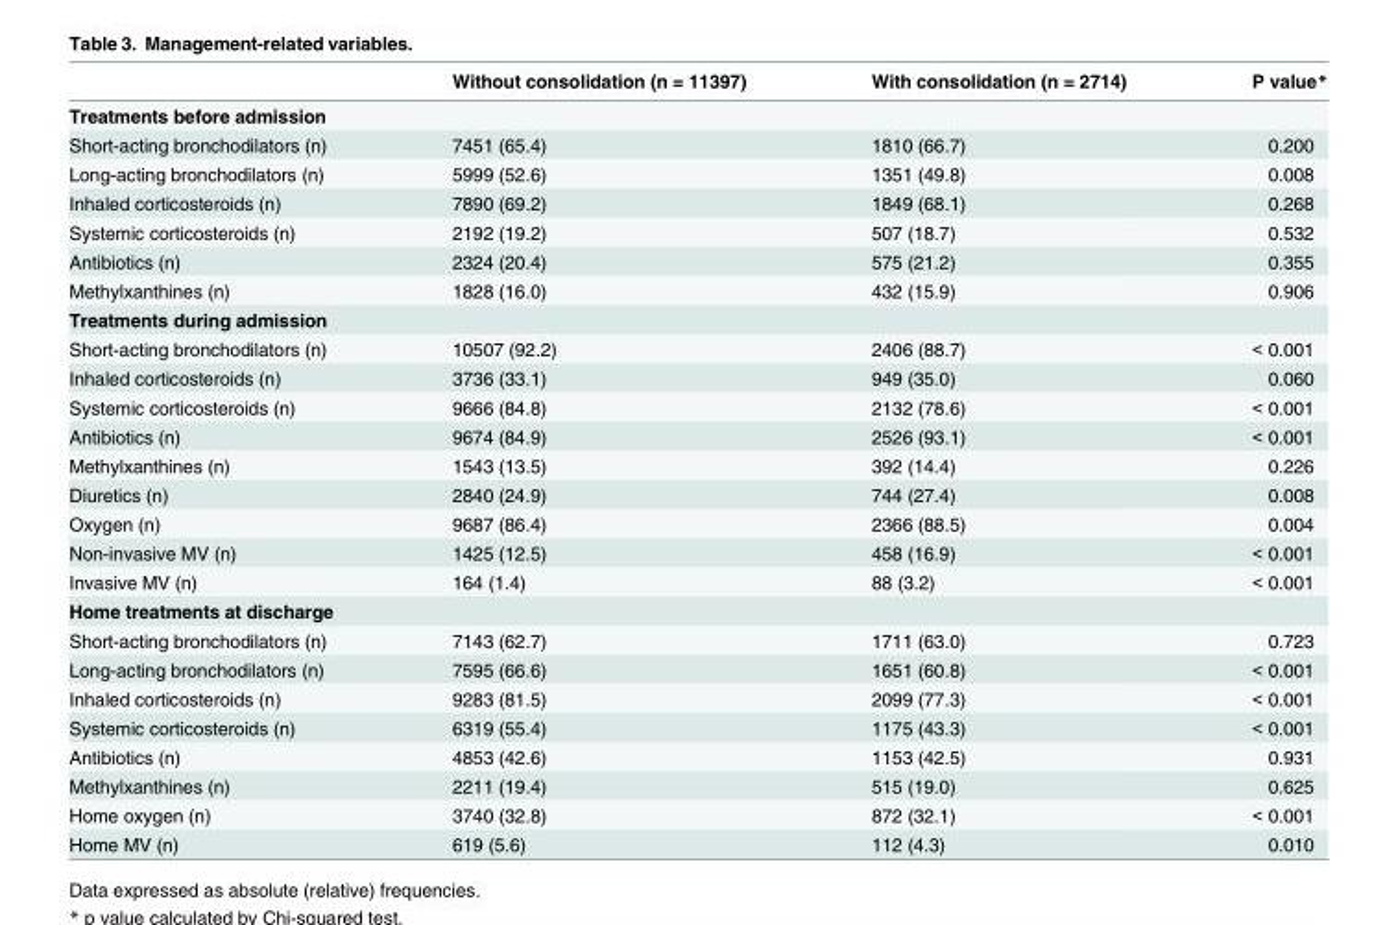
<table><thead><tr><td></td><td>Without consolidation (n = 11397)</td><td>With consolidation (n = 2714)</td><td>P value*</td></tr></thead><tbody><tr><td colspan="4">Treatments before admission</td></tr><tr><td>Short-acting bronchodilators (n)</td><td>7451 (65.4)</td><td>1810 (66.7)</td><td>0.200</td></tr><tr><td>Long-acting bronchodilators (n)</td><td>5999 (52.6)</td><td>1351 (49.8)</td><td>0.008</td></tr><tr><td>Inhaled corticosteroids (n)</td><td>7890 (69.2)</td><td>1849 (68.1)</td><td>0.268</td></tr><tr><td>Systemic corticosteroids (n)</td><td>2192 (19.2)</td><td>507 (18.7)</td><td>0.532</td></tr><tr><td>Antibiotics (n)</td><td>2324 (20.4)</td><td>575 (21.2)</td><td>0.355</td></tr><tr><td>Methylxanthines (n)</td><td>1828 (16.0)</td><td>432 (15.9)</td><td>0.906</td></tr><tr><td colspan="4">Treatments during admission</td></tr><tr><td>Short-acting bronchodilators (n)</td><td>10507 (92.2)</td><td>2406 (88.7)</td><td>&lt; 0.001</td></tr><tr><td>Inhaled corticosteroids (n)</td><td>3736 (33.1)</td><td>949 (35.0)</td><td>0.060</td></tr><tr><td>Systemic corticosteroids (n)</td><td>9666 (84.8)</td><td>2132 (78.6)</td><td>&lt; 0.001</td></tr><tr><td>Antibiotics (n)</td><td>9674 (84.9)</td><td>2526 (93.1)</td><td>&lt; 0.001</td></tr><tr><td>Methylxanthines (n)</td><td>1543 (13.5)</td><td>392 (14.4)</td><td>0.226</td></tr><tr><td>Diuretics (n)</td><td>2840 (24.9)</td><td>744 (27.4)</td><td>0.008</td></tr><tr><td>Oxygen (n)</td><td>9687 (86.4)</td><td>2366 (88.5)</td><td>0.004</td></tr><tr><td>Non-invasive MV (n)</td><td>1425 (12.5)</td><td>458 (16.9)</td><td>&lt; 0.001</td></tr><tr><td>Invasive MV (n)</td><td>164 (1.4)</td><td>88 (3.2)</td><td>&lt; 0.001</td></tr><tr><td colspan="4">Home treatments at discharge</td></tr><tr><td>Short-acting bronchodilators (n)</td><td>7143 (62.7)</td><td>1711 (63.0)</td><td>0.723</td></tr><tr><td>Long-acting bronchodilators (n)</td><td>7595 (66.6)</td><td>1651 (60.8)</td><td>&lt; 0.001</td></tr><tr><td>Inhaled corticosteroids (n)</td><td>9283 (81.5)</td><td>2099 (77.3)</td><td>&lt; 0.001</td></tr><tr><td>Systemic corticosteroids (n)</td><td>6319 (55.4)</td><td>1175 (43.3)</td><td>&lt; 0.001</td></tr><tr><td>Antibiotics (n)</td><td>4853 (42.6)</td><td>1153 (42.5)</td><td>0.931</td></tr><tr><td>Methylxanthines (n)</td><td>2211 (19.4)</td><td>515 (19.0)</td><td>0.625</td></tr><tr><td>Home oxygen (n)</td><td>3740 (32.8)</td><td>872 (32.1)</td><td>&lt; 0.001</td></tr><tr><td>Home MV (n)</td><td>619 (5.6)</td><td>112 (4.3)</td><td>0.010</td></tr></tbody></table>